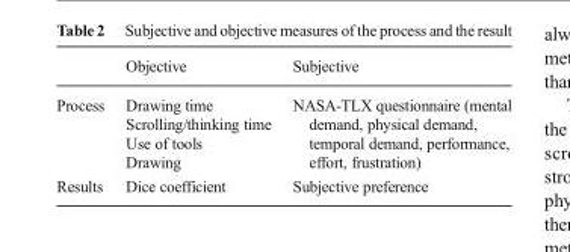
<table><thead><tr><td></td><td>Objective</td><td>Subjective</td></tr></thead><tbody><tr><td>Process</td><td>Drawing time Scrolling/thinking time Use of tools Drawing</td><td>NASA-TLX questionnaire (mental demand, physical demand, temporal demand, performance, effort, frustration)</td></tr><tr><td>Results</td><td>Dice coefficient</td><td>Subjective preference</td></tr></tbody></table>